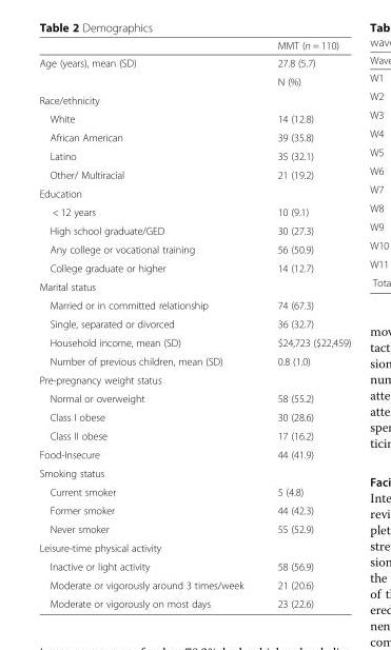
<table><thead><tr><td></td><td>MMT (n = 110)</td></tr></thead><tbody><tr><td rowspan="2">Age (years), mean (SD)</td><td>27.8 (5.7)</td></tr><tr><td>N (%)</td></tr><tr><td colspan="2">Race/ethnicity</td></tr><tr><td>White</td><td>14 (12.8)</td></tr><tr><td>African American</td><td>39 (35.8)</td></tr><tr><td>Latino</td><td>35 (32.1)</td></tr><tr><td>Other/ Multiracial</td><td>21 (19.2)</td></tr><tr><td colspan="2">Education</td></tr><tr><td>&lt; 12 years</td><td>10 (9.1)</td></tr><tr><td>High school graduate/GED</td><td>30 (27.3)</td></tr><tr><td>Any college or vocational training</td><td>56 (50.9)</td></tr><tr><td>College graduate or higher</td><td>14 (12.7)</td></tr><tr><td colspan="2">Marital status</td></tr><tr><td>Married or in committed relationship</td><td>74 (67.3)</td></tr><tr><td>Single, separated or divorced</td><td>36 (32.7)</td></tr><tr><td>Household income, mean (SD)</td><td>$24,723 ($22,459)</td></tr><tr><td>Number of previous children, mean (SD)</td><td>0.8 (1.0)</td></tr><tr><td colspan="2">Pre-pregnancy weight status</td></tr><tr><td>Normal or overweight</td><td>58 (55.2)</td></tr><tr><td>Class I obese</td><td>30 (28.6)</td></tr><tr><td>Class II obese</td><td>17 (16.2)</td></tr><tr><td>Food-Insecure</td><td>44 (41.9)</td></tr><tr><td colspan="2">Smoking status</td></tr><tr><td>Current smoker</td><td>5 (4.8)</td></tr><tr><td>Former smoker</td><td>44 (42.3)</td></tr><tr><td>Never smoker</td><td>55 (52.9)</td></tr><tr><td colspan="2">Leisure-time physical activity</td></tr><tr><td>Inactive or light activity</td><td>58 (56.9)</td></tr><tr><td>Moderate or vigorously around 3 times/week</td><td>21 (20.6)</td></tr><tr><td>Moderate or vigorously on most days</td><td>23 (22.6)</td></tr></tbody></table>